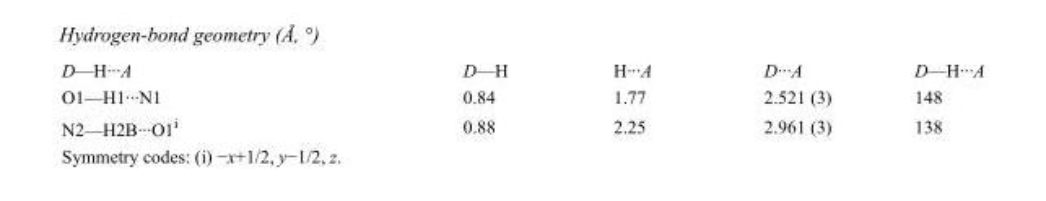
<table><tbody><tr><td>D—H···A</td><td>D—H</td><td>H···A</td><td>D···A</td><td>D—H···A</td></tr><tr><td>O1—H1···N1</td><td>0.84</td><td>1.77</td><td>2.521 (3)</td><td>148</td></tr><tr><td>N2—H2B···O1<sup>i</sup></td><td>0.88</td><td>2.25</td><td>2.961 (3)</td><td>138</td></tr></tbody></table>